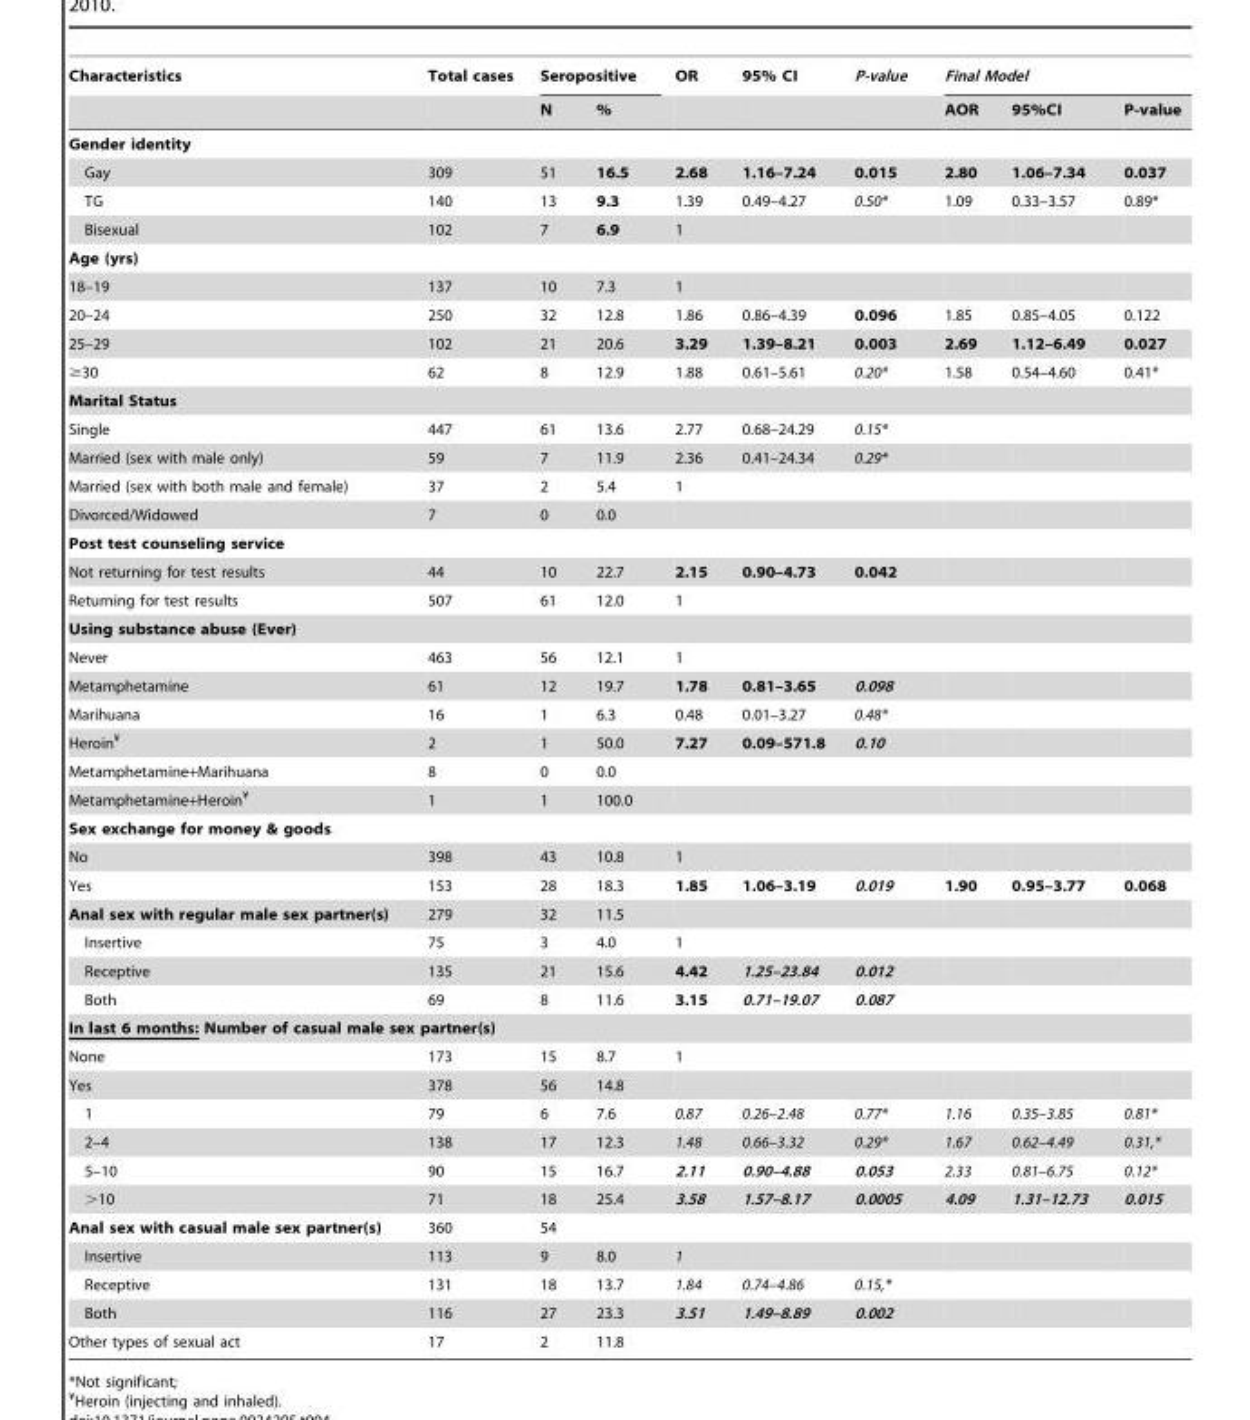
<table><thead><tr><td rowspan="2">Characteristics</td><td rowspan="2">Total cases</td><td colspan="2">Seropositive</td><td rowspan="2">OR</td><td rowspan="2">95% CI</td><td rowspan="2">P-value</td><td colspan="3">Final Model</td></tr><tr><td>N</td><td>%</td><td>AOR</td><td>95%CI</td><td>P-value</td></tr></thead><tbody><tr><td colspan="10">Gender identity</td></tr><tr><td>Gay</td><td>309</td><td>51</td><td>16.5</td><td>2.68</td><td>1.16–7.24</td><td>0.015</td><td>2.80</td><td>1.06–7.34</td><td>0.037</td></tr><tr><td>TG</td><td>140</td><td>13</td><td>9.3</td><td>1.39</td><td>0.49–4.27</td><td>0.50*</td><td>1.09</td><td>0.33–3.57</td><td>0.89*</td></tr><tr><td>Bisexual</td><td>102</td><td>7</td><td>6.9</td><td>1</td><td></td><td></td><td></td><td></td><td></td></tr><tr><td colspan="10">Age (yrs)</td></tr><tr><td>18–19</td><td>137</td><td>10</td><td>7.3</td><td>1</td><td></td><td></td><td></td><td></td><td></td></tr><tr><td>20–24</td><td>250</td><td>32</td><td>12.8</td><td>1.86</td><td>0.86–4.39</td><td>0.096</td><td>1.85</td><td>0.85–4.05</td><td>0.122</td></tr><tr><td>25–29</td><td>102</td><td>21</td><td>20.6</td><td>3.29</td><td>1.39–8.21</td><td>0.003</td><td>2.69</td><td>1.12–6.49</td><td>0.027</td></tr><tr><td>≥30</td><td>62</td><td>8</td><td>12.9</td><td>1.88</td><td>0.61–5.61</td><td>0.20*</td><td>1.58</td><td>0.54–4.60</td><td>0.41*</td></tr><tr><td colspan="10">Marital Status</td></tr><tr><td>Single</td><td>447</td><td>61</td><td>13.6</td><td>2.77</td><td>0.68–24.29</td><td>0.15*</td><td></td><td></td><td></td></tr><tr><td>Married (sex with male only)</td><td>59</td><td>7</td><td>11.9</td><td>2.36</td><td>0.41–24.34</td><td>0.29*</td><td></td><td></td><td></td></tr><tr><td>Married (sex with both male and female)</td><td>37</td><td>2</td><td>5.4</td><td>1</td><td></td><td></td><td></td><td></td><td></td></tr><tr><td>Divorced/Widowed</td><td>7</td><td>0</td><td>0.0</td><td></td><td></td><td></td><td></td><td></td><td></td></tr><tr><td colspan="10">Post test counseling service</td></tr><tr><td>Not returning for test results</td><td>44</td><td>10</td><td>22.7</td><td>2.15</td><td>0.90–4.73</td><td>0.042</td><td></td><td></td><td></td></tr><tr><td>Returning for test results</td><td>507</td><td>61</td><td>12.0</td><td>1</td><td></td><td></td><td></td><td></td><td></td></tr><tr><td colspan="10">Using substance abuse (Ever)</td></tr><tr><td>Never</td><td>463</td><td>56</td><td>12.1</td><td>1</td><td></td><td></td><td></td><td></td><td></td></tr><tr><td>Metamphetamine</td><td>61</td><td>12</td><td>19.7</td><td>1.78</td><td>0.81–3.65</td><td>0.098</td><td></td><td></td><td></td></tr><tr><td>Marihuana</td><td>16</td><td>1</td><td>6.3</td><td>0.48</td><td>0.01–3.27</td><td>0.48*</td><td></td><td></td><td></td></tr><tr><td>Heroin¥</td><td>2</td><td>1</td><td>50.0</td><td>7.27</td><td>0.09–571.8</td><td>0.10</td><td></td><td></td><td></td></tr><tr><td>Metamphetamine+Marihuana</td><td>8</td><td>0</td><td>0.0</td><td></td><td></td><td></td><td></td><td></td><td></td></tr><tr><td>Metamphetamine+Heroin¥</td><td>1</td><td>1</td><td>100.0</td><td></td><td></td><td></td><td></td><td></td><td></td></tr><tr><td colspan="10">Sex exchange for money &amp; goods</td></tr><tr><td>No</td><td>398</td><td>43</td><td>10.8</td><td>1</td><td></td><td></td><td></td><td></td><td></td></tr><tr><td>Yes</td><td>153</td><td>28</td><td>18.3</td><td>1.85</td><td>1.06–3.19</td><td>0.019</td><td>1.90</td><td>0.95–3.77</td><td>0.068</td></tr><tr><td>Anal sex with regular male sex partner(s)</td><td>279</td><td>32</td><td>11.5</td><td></td><td></td><td></td><td></td><td></td><td></td></tr><tr><td>Insertive</td><td>75</td><td>3</td><td>4.0</td><td>1</td><td></td><td></td><td></td><td></td><td></td></tr><tr><td>Receptive</td><td>135</td><td>21</td><td>15.6</td><td>4.42</td><td>1.25–23.84</td><td>0.012</td><td></td><td></td><td></td></tr><tr><td>Both</td><td>69</td><td>8</td><td>11.6</td><td>3.15</td><td>0.71–19.07</td><td>0.087</td><td></td><td></td><td></td></tr><tr><td colspan="10">In last 6 months: Number of casual male sex partner(s)</td></tr><tr><td>None</td><td>173</td><td>15</td><td>8.7</td><td>1</td><td></td><td></td><td></td><td></td><td></td></tr><tr><td>Yes</td><td>378</td><td>56</td><td>14.8</td><td></td><td></td><td></td><td></td><td></td><td></td></tr><tr><td>1</td><td>79</td><td>6</td><td>7.6</td><td>0.87</td><td>0.26–2.48</td><td>0.77*</td><td>1.16</td><td>0.35–3.85</td><td>0.81*</td></tr><tr><td>2–4</td><td>138</td><td>17</td><td>12.3</td><td>1.48</td><td>0.66–3.32</td><td>0.29*</td><td>1.67</td><td>0.62–4.49</td><td>0.31,*</td></tr><tr><td>5–10</td><td>90</td><td>15</td><td>16.7</td><td>2.11</td><td>0.90–4.88</td><td>0.053</td><td>2.33</td><td>0.81–6.75</td><td>0.12*</td></tr><tr><td>&gt;10</td><td>71</td><td>18</td><td>25.4</td><td>3.58</td><td>1.57–8.17</td><td>0.0005</td><td>4.09</td><td>1.31–12.73</td><td>0.015</td></tr><tr><td>Anal sex with casual male sex partner(s)</td><td>360</td><td>54</td><td></td><td></td><td></td><td></td><td></td><td></td><td></td></tr><tr><td>Insertive</td><td>113</td><td>9</td><td>8.0</td><td>1</td><td></td><td></td><td></td><td></td><td></td></tr><tr><td>Receptive</td><td>131</td><td>18</td><td>13.7</td><td>1.84</td><td>0.74–4.86</td><td>0.15,*</td><td></td><td></td><td></td></tr><tr><td>Both</td><td>116</td><td>27</td><td>23.3</td><td>3.51</td><td>1.49–8.89</td><td>0.002</td><td></td><td></td><td></td></tr><tr><td>Other types of sexual act</td><td>17</td><td>2</td><td>11.8</td><td></td><td></td><td></td><td></td><td></td><td></td></tr></tbody></table>